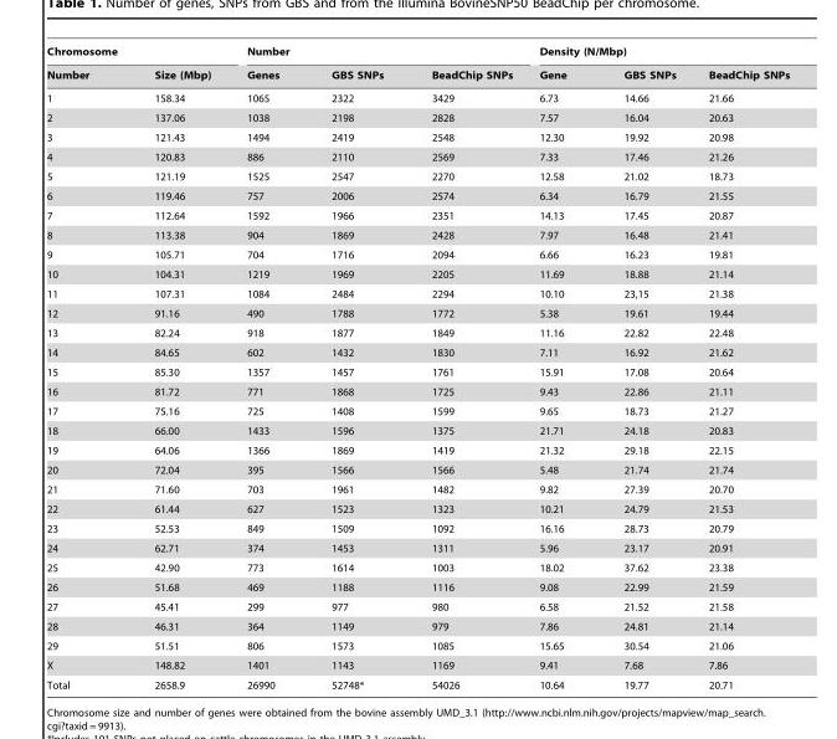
<table><thead><tr><td colspan="2">Chromosome</td><td colspan="3">Number</td><td colspan="3">Density (N/Mbp)</td></tr><tr><td>Number</td><td>Size (Mbp)</td><td>Genes</td><td>GBS SNPs</td><td>BeadChip SNPs</td><td>Gene</td><td>GBS SNPs</td><td>BeadChip SNPs</td></tr></thead><tbody><tr><td>1</td><td>158.34</td><td>1065</td><td>2322</td><td>3429</td><td>6.73</td><td>14.66</td><td>21.66</td></tr><tr><td>2</td><td>137.06</td><td>1038</td><td>2198</td><td>2828</td><td>7.57</td><td>16.04</td><td>20.63</td></tr><tr><td>3</td><td>121.43</td><td>1494</td><td>2419</td><td>2548</td><td>12.30</td><td>19.92</td><td>20.98</td></tr><tr><td>4</td><td>120.83</td><td>886</td><td>2110</td><td>2569</td><td>7.33</td><td>17.46</td><td>21.26</td></tr><tr><td>5</td><td>121.19</td><td>1525</td><td>2547</td><td>2270</td><td>12.58</td><td>21.02</td><td>18.73</td></tr><tr><td>6</td><td>119.46</td><td>757</td><td>2006</td><td>2574</td><td>6.34</td><td>16.79</td><td>21.55</td></tr><tr><td>7</td><td>112.64</td><td>1592</td><td>1966</td><td>2351</td><td>14.13</td><td>17.45</td><td>20.87</td></tr><tr><td>8</td><td>113.38</td><td>904</td><td>1869</td><td>2428</td><td>7.97</td><td>16.48</td><td>21.41</td></tr><tr><td>9</td><td>105.71</td><td>704</td><td>1716</td><td>2094</td><td>6.66</td><td>16.23</td><td>19.81</td></tr><tr><td>10</td><td>104.31</td><td>1219</td><td>1969</td><td>2205</td><td>11.69</td><td>18.88</td><td>21.14</td></tr><tr><td>11</td><td>107.31</td><td>1084</td><td>2484</td><td>2294</td><td>10.10</td><td>23,15</td><td>21.38</td></tr><tr><td>12</td><td>91.16</td><td>490</td><td>1788</td><td>1772</td><td>5.38</td><td>19.61</td><td>19.44</td></tr><tr><td>13</td><td>82.24</td><td>918</td><td>1877</td><td>1849</td><td>11.16</td><td>22.82</td><td>22.48</td></tr><tr><td>14</td><td>84.65</td><td>602</td><td>1432</td><td>1830</td><td>7.11</td><td>16.92</td><td>21.62</td></tr><tr><td>15</td><td>85.30</td><td>1357</td><td>1457</td><td>1761</td><td>15.91</td><td>17.08</td><td>20.64</td></tr><tr><td>16</td><td>81.72</td><td>771</td><td>1868</td><td>1725</td><td>9.43</td><td>22.86</td><td>21.11</td></tr><tr><td>17</td><td>75.16</td><td>725</td><td>1408</td><td>1599</td><td>9.65</td><td>18.73</td><td>21.27</td></tr><tr><td>18</td><td>66.00</td><td>1433</td><td>1596</td><td>1375</td><td>21.71</td><td>24.18</td><td>20.83</td></tr><tr><td>19</td><td>64.06</td><td>1366</td><td>1869</td><td>1419</td><td>21.32</td><td>29.18</td><td>22.15</td></tr><tr><td>20</td><td>72.04</td><td>395</td><td>1566</td><td>1566</td><td>5.48</td><td>21.74</td><td>21.74</td></tr><tr><td>21</td><td>71.60</td><td>703</td><td>1961</td><td>1482</td><td>9.82</td><td>27.39</td><td>20.70</td></tr><tr><td>22</td><td>61.44</td><td>627</td><td>1523</td><td>1323</td><td>10.21</td><td>24.79</td><td>21.53</td></tr><tr><td>23</td><td>52.53</td><td>849</td><td>1509</td><td>1092</td><td>16.16</td><td>28.73</td><td>20.79</td></tr><tr><td>24</td><td>62.71</td><td>374</td><td>1453</td><td>1311</td><td>5.96</td><td>23.17</td><td>20.91</td></tr><tr><td>25</td><td>42.90</td><td>773</td><td>1614</td><td>1003</td><td>18.02</td><td>37.62</td><td>23.38</td></tr><tr><td>26</td><td>51.68</td><td>469</td><td>1188</td><td>1116</td><td>9.08</td><td>22.99</td><td>21.59</td></tr><tr><td>27</td><td>45.41</td><td>299</td><td>977</td><td>980</td><td>6.58</td><td>21.52</td><td>21.58</td></tr><tr><td>28</td><td>46.31</td><td>364</td><td>1149</td><td>979</td><td>7.86</td><td>24.81</td><td>21.14</td></tr><tr><td>29</td><td>51.51</td><td>806</td><td>1573</td><td>1085</td><td>15.65</td><td>30.54</td><td>21.06</td></tr><tr><td>X</td><td>148.82</td><td>1401</td><td>1143</td><td>1169</td><td>9.41</td><td>7.68</td><td>7.86</td></tr><tr><td>Total</td><td>2658.9</td><td>26990</td><td>52748*</td><td>54026</td><td>10.64</td><td>19.77</td><td>20.71</td></tr></tbody></table>